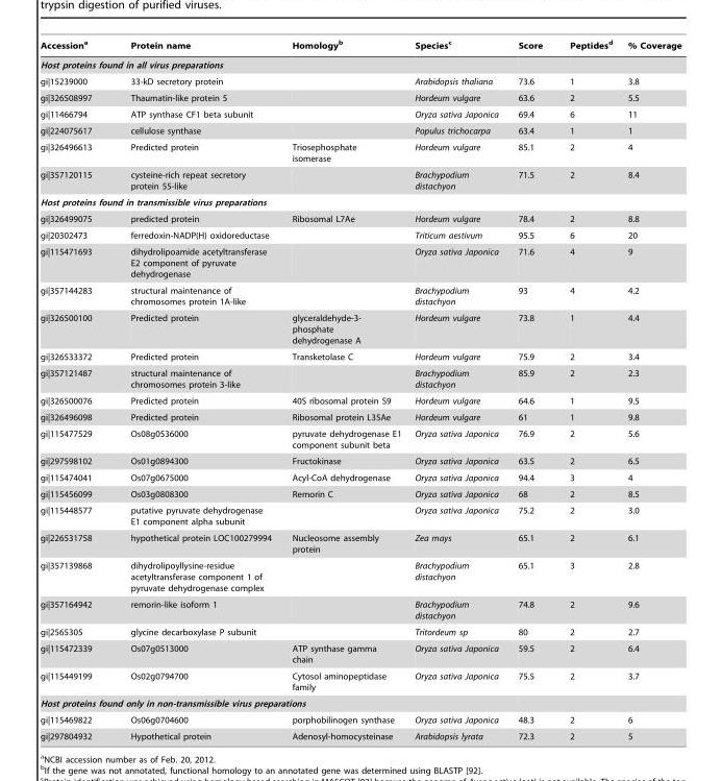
<table><thead><tr><td>Accession<sup>a</sup></td><td>Protein name</td><td>Homology<sup>b</sup></td><td>Species<sup>c</sup></td><td>Score</td><td>Peptides<sup>d</sup></td><td>% Coverage</td></tr></thead><tbody><tr><td colspan="7">Host proteins found in all virus preparations</td></tr><tr><td>gi|15239000</td><td>33-kD secretory protein</td><td></td><td>Arabidopsis thaliana</td><td>73.6</td><td>1</td><td>3.8</td></tr><tr><td>gi|326508997</td><td>Thaumatin-like protein 5</td><td></td><td>Hordeum vulgare</td><td>63.6</td><td>2</td><td>5.5</td></tr><tr><td>gi|11466794</td><td>ATP synthase CF1 beta subunit</td><td></td><td>Oryza sativa Japonica</td><td>69.4</td><td>6</td><td>11</td></tr><tr><td>gi|224075617</td><td>cellulose synthase</td><td></td><td>Populus trichocarpa</td><td>63.4</td><td>1</td><td>1</td></tr><tr><td>gi|326496613</td><td>Predicted protein</td><td>Triosephosphate isomerase</td><td>Hordeum vulgare</td><td>85.1</td><td>2</td><td>4</td></tr><tr><td>gi|357120115</td><td>cysteine-rich repeat secretory protein 55-like</td><td></td><td>Brachypodium distachyon</td><td>71.5</td><td>2</td><td>8.4</td></tr><tr><td colspan="7">Host proteins found in transmissible virus preparations</td></tr><tr><td>gi|326499075</td><td>predicted protein</td><td>Ribosomal L7Ae</td><td>Hordeum vulgare</td><td>78.4</td><td>2</td><td>8.8</td></tr><tr><td>gi|20302473</td><td>ferredoxin-NADP(H) oxidoreductase</td><td></td><td>Triticum aestivum</td><td>95.5</td><td>6</td><td>20</td></tr><tr><td>gi|115471693</td><td>dihydrolipoamide acetyltransferase E2 component of pyruvate dehydrogenase</td><td></td><td>Oryza sativa Japonica</td><td>71.6</td><td>4</td><td>9</td></tr><tr><td>gi|357144283</td><td>structural maintenance of chromosomes protein 1A-like</td><td></td><td>Brachypodium distachyon</td><td>93</td><td>4</td><td>4.2</td></tr><tr><td>gi|326500100</td><td>Predicted protein</td><td>glyceraldehyde-3- phosphate dehydrogenase A</td><td>Hordeum vulgare</td><td>73.8</td><td>1</td><td>4.4</td></tr><tr><td>gi|326533372</td><td>Predicted protein</td><td>Transketolase C</td><td>Hordeum vulgare</td><td>75.9</td><td>2</td><td>3.4</td></tr><tr><td>gi|357121487</td><td>structural maintenance of chromosomes protein 3-like</td><td></td><td>Brachypodium distachyon</td><td>85.9</td><td>2</td><td>2.3</td></tr><tr><td>gi|326500076</td><td>Predicted protein</td><td>40S ribosomal protein S9</td><td>Hordeum vulgare</td><td>64.6</td><td>1</td><td>9.5</td></tr><tr><td>gi|326496098</td><td>Predicted protein</td><td>Ribosomal protein L35Ae</td><td>Hordeum vulgare</td><td>61</td><td>1</td><td>9.8</td></tr><tr><td>gi|115477529</td><td>Os08g0536000</td><td>pyruvate dehydrogenase E1 component subunit beta</td><td>Oryza sativa Japonica</td><td>76.9</td><td>2</td><td>5.6</td></tr><tr><td>gi|297598102</td><td>Os01g0894300</td><td>Fructokinase</td><td>Oryza sativa Japonica</td><td>63.5</td><td>2</td><td>6.5</td></tr><tr><td>gi|115474041</td><td>Os07g0675000</td><td>Acyl-CoA dehydrogenase</td><td>Oryza sativa Japonica</td><td>94.4</td><td>3</td><td>4</td></tr><tr><td>gi|115456099</td><td>Os03g0808300</td><td>Remorin C</td><td>Oryza sativa Japonica</td><td>68</td><td>2</td><td>8.5</td></tr><tr><td>gi|115448577</td><td>putative pyruvate dehydrogenase E1 component alpha subunit</td><td></td><td>Oryza sativa Japonica</td><td>75.2</td><td>2</td><td>3.0</td></tr><tr><td>gi|226531758</td><td>hypothetical protein LOC100279994</td><td>Nucleosome assembly protein</td><td>Zea mays</td><td>65.1</td><td>2</td><td>6.1</td></tr><tr><td>gi|357139868</td><td>dihydrolipoyllysine-residue acetyltransferase component 1 of pyruvate dehydrogenase complex</td><td></td><td>Brachypodium distachyon</td><td>65.1</td><td>3</td><td>2.8</td></tr><tr><td>gi|357164942</td><td>remorin-like isoform 1</td><td></td><td>Brachypodium distachyon</td><td>74.8</td><td>2</td><td>9.6</td></tr><tr><td>gi|2565305</td><td>glycine decarboxylase P subunit</td><td></td><td>Tritordeum sp</td><td>80</td><td>2</td><td>2.7</td></tr><tr><td>gi|115472339</td><td>Os07g0513000</td><td>ATP synthase gamma chain</td><td>Oryza sativa Japonica</td><td>59.5</td><td>2</td><td>6.4</td></tr><tr><td>gi|115449199</td><td>Os02g0794700</td><td>Cytosol aminopeptidase family</td><td>Oryza sativa Japonica</td><td>75.5</td><td>2</td><td>3.7</td></tr><tr><td colspan="7">Host proteins found only in non-transmissible virus preparations</td></tr><tr><td>gi|115469822</td><td>Os06g0704600</td><td>porphobilinogen synthase</td><td>Oryza sativa Japonica</td><td>48.3</td><td>2</td><td>6</td></tr><tr><td>gi|297804932</td><td>Hypothetical protein</td><td>Adenosyl-homocysteinase</td><td>Arabidopsis lyrata</td><td>72.3</td><td>2</td><td>5</td></tr></tbody></table>